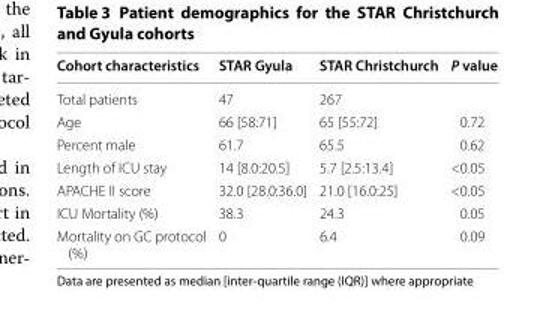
<table><thead><tr><td>Cohort characteristics</td><td>STAR Gyula</td><td>STAR Christchurch</td><td>P value</td></tr></thead><tbody><tr><td>Total patients</td><td>47</td><td>267</td><td></td></tr><tr><td>Age</td><td>66 [58:71]</td><td>65 [55:72]</td><td>0.72</td></tr><tr><td>Percent male</td><td>61.7</td><td>65.5</td><td>0.62</td></tr><tr><td>Length of ICU stay</td><td>14 [8.0:20.5]</td><td>5.7 [2.5:13.4]</td><td>&lt;0.05</td></tr><tr><td>APACHE II score</td><td>32.0 [28.0:36.0]</td><td>21.0 [16.0:25]</td><td>&lt;0.05</td></tr><tr><td>ICU Mortality (%)</td><td>38.3</td><td>24.3</td><td>0.05</td></tr><tr><td>Mortality on GC protocol (%)</td><td>0</td><td>6.4</td><td>0.09</td></tr></tbody></table>